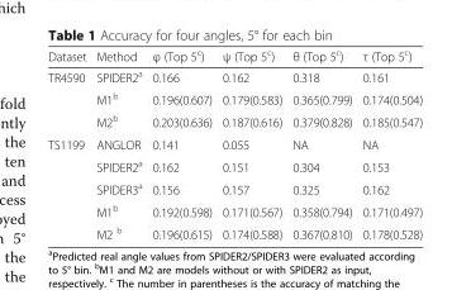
<table><thead><tr><td>Dataset</td><td>Method</td><td>φ (Top 5<sup>c</sup>)</td><td>ψ (Top 5<sup>c</sup>)</td><td>θ (Top 5<sup>c</sup>)</td><td>τ (Top 5<sup>c</sup>)</td></tr></thead><tbody><tr><td rowspan="3">TR4590</td><td>SPIDER2<sup>a</sup></td><td>0.166</td><td>0.162</td><td>0.318</td><td>0.161</td></tr><tr><td>M1<sup>b</sup></td><td>0.196(0.607)</td><td>0.179(0.583)</td><td>0.365(0.799)</td><td>0.174(0.504)</td></tr><tr><td>M2<sup>b</sup></td><td>0.203(0.636)</td><td>0.187(0.616)</td><td>0.379(0.828)</td><td>0.185(0.547)</td></tr><tr><td rowspan="5">TS1199</td><td>ANGLOR</td><td>0.141</td><td>0.055</td><td>NA</td><td>NA</td></tr><tr><td>SPIDER2<sup>a</sup></td><td>0.162</td><td>0.151</td><td>0.304</td><td>0.153</td></tr><tr><td>SPIDER3<sup>a</sup></td><td>0.156</td><td>0.157</td><td>0.325</td><td>0.162</td></tr><tr><td>M1<sup>b</sup></td><td>0.192(0.598)</td><td>0.171(0.567)</td><td>0.358(0.794)</td><td>0.171(0.497)</td></tr><tr><td>M2 <sup>b</sup></td><td>0.196(0.615)</td><td>0.174(0.588)</td><td>0.367(0.810)</td><td>0.178(0.528)</td></tr></tbody></table>